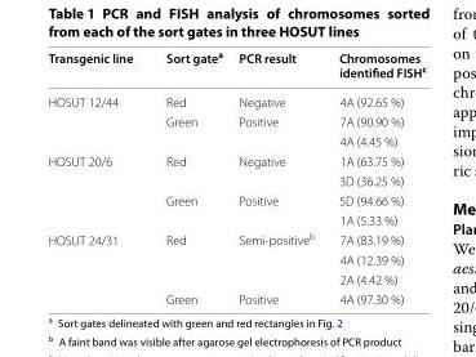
<table><thead><tr><td>Transgenic line</td><td>Sort gate<sup>a</sup></td><td>PCR result</td><td>Chromosomes identified FISH<sup>c</sup></td></tr></thead><tbody><tr><td rowspan="3">HOSUT 12/44</td><td>Red</td><td>Negative</td><td>4A (92.65 %)</td></tr><tr><td rowspan="2">Green</td><td rowspan="2">Positive</td><td>7A (90.90 %)</td></tr><tr><td>4A (4.45 %)</td></tr><tr><td rowspan="4">HOSUT 20/6</td><td rowspan="2">Red</td><td rowspan="2">Negative</td><td>1A (63.75 %)</td></tr><tr><td>3D (36.25 %)</td></tr><tr><td rowspan="2">Green</td><td rowspan="2">Positive</td><td>5D (94.66 %)</td></tr><tr><td>1A (5.33 %)</td></tr><tr><td rowspan="4">HOSUT 24/31</td><td rowspan="3">Red</td><td rowspan="3">Semi‑positive<sup>b</sup></td><td>7A (83.19 %)</td></tr><tr><td>4A (12.39 %)</td></tr><tr><td>2A (4.42 %)</td></tr><tr><td>Green</td><td>Positive</td><td>4A (97.30 %)</td></tr></tbody></table>